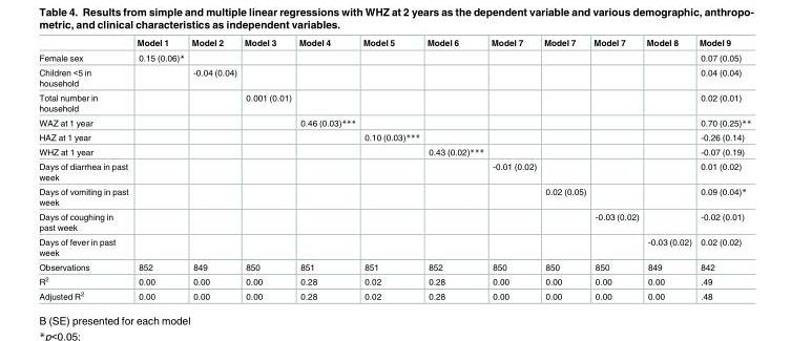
<table><thead><tr><td></td><td>Model 1</td><td>Model 2</td><td>Model 3</td><td>Model 4</td><td>Model 5</td><td>Model 6</td><td>Model 7</td><td>Model 7</td><td>Model 7</td><td>Model 8</td><td>Model 9</td></tr></thead><tbody><tr><td>Female sex</td><td>0.15 (0.06)*</td><td></td><td></td><td></td><td></td><td></td><td></td><td></td><td></td><td></td><td>0.07 (0.05)</td></tr><tr><td>Children &lt;5 in household</td><td></td><td>-0.04 (0.04)</td><td></td><td></td><td></td><td></td><td></td><td></td><td></td><td></td><td>0.04 (0.04)</td></tr><tr><td>Total number in household</td><td></td><td></td><td>0.001 (0.01)</td><td></td><td></td><td></td><td></td><td></td><td></td><td></td><td>0.02 (0.01)</td></tr><tr><td>WAZ at 1 year</td><td></td><td></td><td></td><td>0.46 (0.03)***</td><td></td><td></td><td></td><td></td><td></td><td></td><td>0.70 (0.25)**</td></tr><tr><td>HAZ at 1 year</td><td></td><td></td><td></td><td></td><td>0.10 (0.03)***</td><td></td><td></td><td></td><td></td><td></td><td>-0.26 (0.14)</td></tr><tr><td>WHZ at 1 year</td><td></td><td></td><td></td><td></td><td></td><td>0.43 (0.02)***</td><td></td><td></td><td></td><td></td><td>-0.07 (0.19)</td></tr><tr><td>Days of diarrhea in past week</td><td></td><td></td><td></td><td></td><td></td><td></td><td>-0.01 (0.02)</td><td></td><td></td><td></td><td>0.01 (0.02)</td></tr><tr><td>Days of vomiting in past week</td><td></td><td></td><td></td><td></td><td></td><td></td><td></td><td>0.02 (0.05)</td><td></td><td></td><td>0.09 (0.04)*</td></tr><tr><td>Days of coughing in past week</td><td></td><td></td><td></td><td></td><td></td><td></td><td></td><td></td><td>-0.03 (0.02)</td><td></td><td>-0.02 (0.01)</td></tr><tr><td>Days of fever in past week</td><td></td><td></td><td></td><td></td><td></td><td></td><td></td><td></td><td></td><td>-0.03 (0.02)</td><td>0.02 (0.02)</td></tr><tr><td>Observations</td><td>852</td><td>849</td><td>850</td><td>851</td><td>851</td><td>852</td><td>850</td><td>850</td><td>850</td><td>849</td><td>842</td></tr><tr><td>R<sup>2</sup></td><td>0.00</td><td>0.00</td><td>0.00</td><td>0.28</td><td>0.02</td><td>0.28</td><td>0.00</td><td>0.00</td><td>0.00</td><td>0.00</td><td>.49</td></tr><tr><td>Adjusted R<sup>2</sup></td><td>0.00</td><td>0.00</td><td>0.00</td><td>0.28</td><td>0.02</td><td>0.28</td><td>0.00</td><td>0.00</td><td>0.00</td><td>0.00</td><td>.48</td></tr></tbody></table>